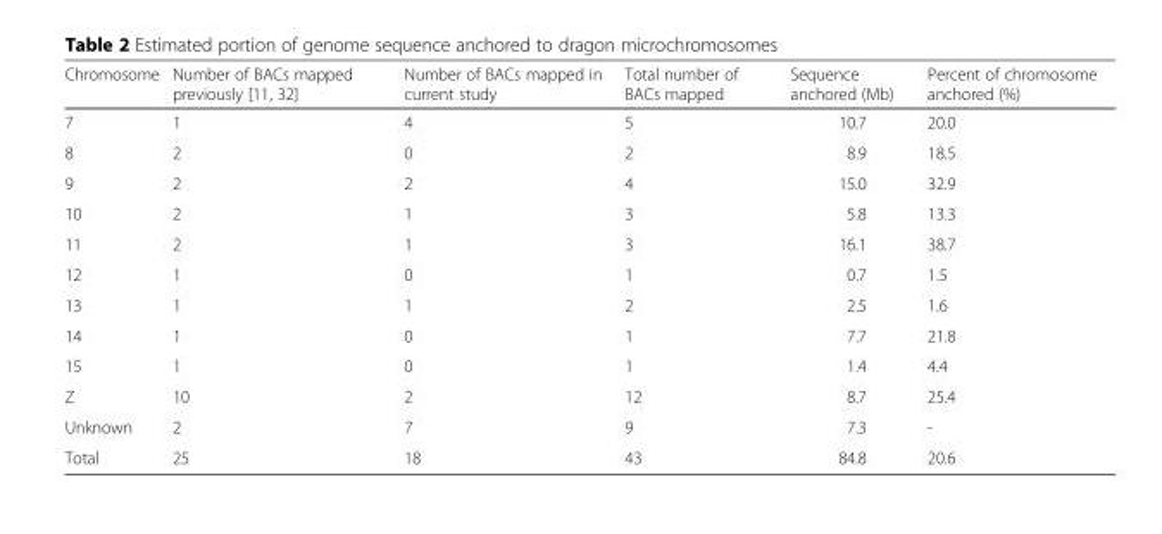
<table><thead><tr><td>Chromosome</td><td>Number of BACs mapped previously [11, 32]</td><td>Number of BACs mapped in current study</td><td>Total number of BACs mapped</td><td>Sequence anchored (Mb)</td><td>Percent of chromosome anchored (%)</td></tr></thead><tbody><tr><td>7</td><td>1</td><td>4</td><td>5</td><td>10.7</td><td>20.0</td></tr><tr><td>8</td><td>2</td><td>0</td><td>2</td><td>8.9</td><td>18.5</td></tr><tr><td>9</td><td>2</td><td>2</td><td>4</td><td>15.0</td><td>32.9</td></tr><tr><td>10</td><td>2</td><td>1</td><td>3</td><td>5.8</td><td>13.3</td></tr><tr><td>11</td><td>2</td><td>1</td><td>3</td><td>16.1</td><td>38.7</td></tr><tr><td>12</td><td>1</td><td>0</td><td>1</td><td>0.7</td><td>1.5</td></tr><tr><td>13</td><td>1</td><td>1</td><td>2</td><td>2.5</td><td>1.6</td></tr><tr><td>14</td><td>1</td><td>0</td><td>1</td><td>7.7</td><td>21.8</td></tr><tr><td>15</td><td>1</td><td>0</td><td>1</td><td>1.4</td><td>4.4</td></tr><tr><td>Z</td><td>10</td><td>2</td><td>12</td><td>8.7</td><td>25.4</td></tr><tr><td>Unknown</td><td>2</td><td>7</td><td>9</td><td>7.3</td><td>-</td></tr><tr><td>Total</td><td>25</td><td>18</td><td>43</td><td>84.8</td><td>20.6</td></tr></tbody></table>